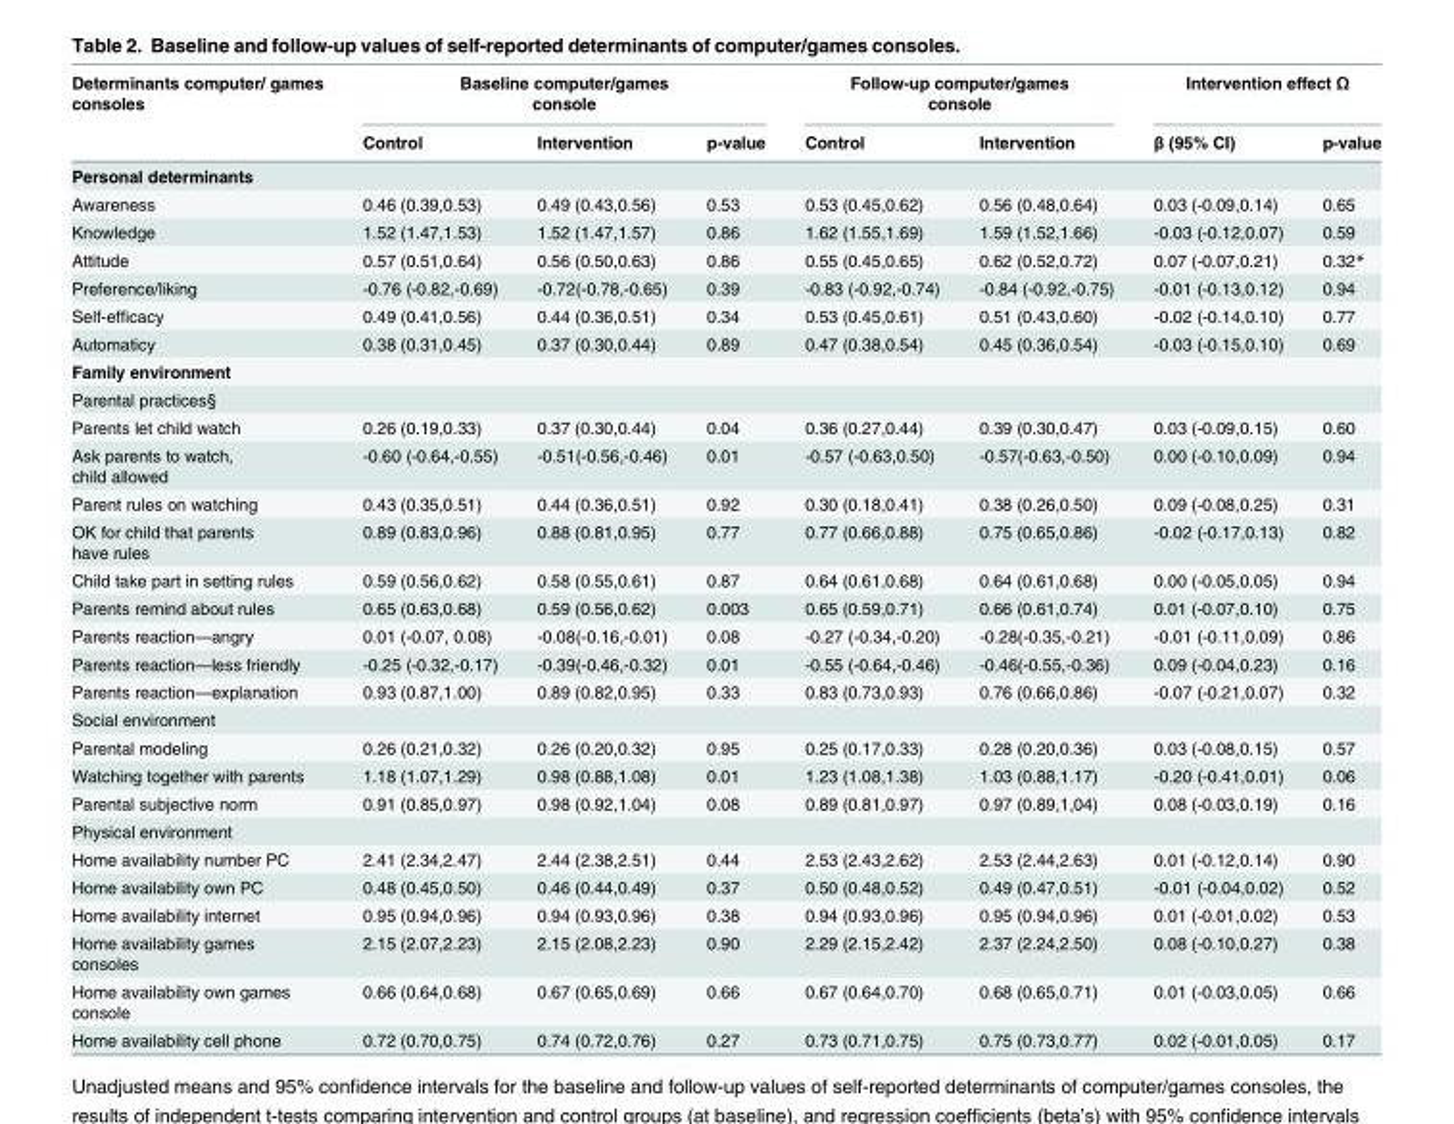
<table><thead><tr><td rowspan="2">Determinants computer/ games consoles</td><td colspan="3">Baseline computer/games console</td><td colspan="2">Follow-up computer/games console</td><td colspan="2">Intervention effect Ω</td></tr><tr><td>Control</td><td>Intervention</td><td>p-value</td><td>Control</td><td>Intervention</td><td>β (95% CI)</td><td>p-value</td></tr></thead><tbody><tr><td colspan="8">Personal determinants</td></tr><tr><td>Awareness</td><td>0.46 (0.39,0.53)</td><td>0.49 (0.43,0.56)</td><td>0.53</td><td>0.53 (0.45,0.62)</td><td>0.56 (0.48,0.64)</td><td>0.03 (-0.09,0.14)</td><td>0.65</td></tr><tr><td>Knowledge</td><td>1.52 (1.47,1.53)</td><td>1.52 (1.47,1.57)</td><td>0.86</td><td>1.62 (1.55,1.69)</td><td>1.59 (1.52,1.66)</td><td>-0.03 (-0.12,0.07)</td><td>0.59</td></tr><tr><td>Attitude</td><td>0.57 (0.51,0.64)</td><td>0.56 (0.50,0.63)</td><td>0.86</td><td>0.55 (0.45,0.65)</td><td>0.62 (0.52,0.72)</td><td>0.07 (-0.07,0.21)</td><td>0.32*</td></tr><tr><td>Preference/liking</td><td>-0.76 (-0.82,-0.69)</td><td>-0.72(-0.78,-0.65)</td><td>0.39</td><td>-0.83 (-0.92,-0.74)</td><td>-0.84 (-0.92,-0.75)</td><td>-0.01 (-0.13,0.12)</td><td>0.94</td></tr><tr><td>Self-efficacy</td><td>0.49 (0.41,0.56)</td><td>0.44 (0.36,0.51)</td><td>0.34</td><td>0.53 (0.45,0.61)</td><td>0.51 (0.43,0.60)</td><td>-0.02 (-0.14,0.10)</td><td>0.77</td></tr><tr><td>Automaticy</td><td>0.38 (0.31,0.45)</td><td>0.37 (0.30,0.44)</td><td>0.89</td><td>0.47 (0.38,0.54)</td><td>0.45 (0.36,0.54)</td><td>-0.03 (-0.15,0.10)</td><td>0.69</td></tr><tr><td colspan="8">Family environment</td></tr><tr><td colspan="8">Parental practices§</td></tr><tr><td>Parents let child watch</td><td>0.26 (0.19,0.33)</td><td>0.37 (0.30,0.44)</td><td>0.04</td><td>0.36 (0.27,0.44)</td><td>0.39 (0.30,0.47)</td><td>0.03 (-0.09,0.15)</td><td>0.60</td></tr><tr><td>Ask parents to watch, child allowed</td><td>-0.60 (-0.64,-0.55)</td><td>-0.51(-0.56,-0.46)</td><td>0.01</td><td>-0.57 (-0.63,0.50)</td><td>-0.57(-0.63,-0.50)</td><td>0.00 (-0.10,0.09)</td><td>0.94</td></tr><tr><td>Parent rules on watching</td><td>0.43 (0.35,0.51)</td><td>0.44 (0.36,0.51)</td><td>0.92</td><td>0.30 (0.18,0.41)</td><td>0.38 (0.26,0.50)</td><td>0.09 (-0.08,0.25)</td><td>0.31</td></tr><tr><td>OK for child that parents have rules</td><td>0.89 (0.83,0.96)</td><td>0.88 (0.81,0.95)</td><td>0.77</td><td>0.77 (0.66,0.88)</td><td>0.75 (0.65,0.86)</td><td>-0.02 (-0.17,0.13)</td><td>0.82</td></tr><tr><td>Child take part in setting rules</td><td>0.59 (0.56,0.62)</td><td>0.58 (0.55,0.61)</td><td>0.87</td><td>0.64 (0.61,0.68)</td><td>0.64 (0.61,0.68)</td><td>0.00 (-0.05,0.05)</td><td>0.94</td></tr><tr><td>Parents remind about rules</td><td>0.65 (0.63,0.68)</td><td>0.59 (0.56,0.62)</td><td>0.003</td><td>0.65 (0.59,0.71)</td><td>0.66 (0.61,0.74)</td><td>0.01 (-0.07,0.10)</td><td>0.75</td></tr><tr><td>Parents reaction—angry</td><td>0.01 (-0.07, 0.08)</td><td>-0.08(-0.16,-0.01)</td><td>0.08</td><td>-0.27 (-0.34,-0.20)</td><td>-0.28(-0.35,-0.21)</td><td>-0.01 (-0.11,0.09)</td><td>0.86</td></tr><tr><td>Parents reaction—less friendly</td><td>-0.25 (-0.32,-0.17)</td><td>-0.39(-0.46,-0.32)</td><td>0.01</td><td>-0.55 (-0.64,-0.46)</td><td>-0.46(-0.55,-0.36)</td><td>0.09 (-0.04,0.23)</td><td>0.16</td></tr><tr><td>Parents reaction—explanation</td><td>0.93 (0.87,1.00)</td><td>0.89 (0.82,0.95)</td><td>0.33</td><td>0.83 (0.73,0.93)</td><td>0.76 (0.66,0.86)</td><td>-0.07 (-0.21,0.07)</td><td>0.32</td></tr><tr><td colspan="8">Social environment</td></tr><tr><td>Parental modeling</td><td>0.26 (0.21,0.32)</td><td>0.26 (0.20,0.32)</td><td>0.95</td><td>0.25 (0.17,0.33)</td><td>0.28 (0.20,0.36)</td><td>0.03 (-0.08,0.15)</td><td>0.57</td></tr><tr><td>Watching together with parents</td><td>1.18 (1.07,1.29)</td><td>0.98 (0.88,1.08)</td><td>0.01</td><td>1.23 (1.08,1.38)</td><td>1.03 (0.88,1.17)</td><td>-0.20 (-0.41,0.01)</td><td>0.06</td></tr><tr><td>Parental subjective norm</td><td>0.91 (0.85,0.97)</td><td>0.98 (0.92,1.04)</td><td>0.08</td><td>0.89 (0.81,0.97)</td><td>0.97 (0.89,1,04)</td><td>0.08 (-0.03,0.19)</td><td>0.16</td></tr><tr><td colspan="8">Physical environment</td></tr><tr><td>Home availability number PC</td><td>2.41 (2.34,2.47)</td><td>2.44 (2.38,2.51)</td><td>0.44</td><td>2.53 (2.43,2.62)</td><td>2.53 (2.44,2.63)</td><td>0.01 (-0.12,0.14)</td><td>0.90</td></tr><tr><td>Home availability own PC</td><td>0.48 (0.45,0.50)</td><td>0.46 (0.44,0.49)</td><td>0.37</td><td>0.50 (0.48,0.52)</td><td>0.49 (0.47,0.51)</td><td>-0.01 (-0.04,0.02)</td><td>0.52</td></tr><tr><td>Home availability internet</td><td>0.95 (0.94,0.96)</td><td>0.94 (0.93,0.96)</td><td>0.38</td><td>0.94 (0.93,0.96)</td><td>0.95 (0.94,0.96)</td><td>0.01 (-0.01,0.02)</td><td>0.53</td></tr><tr><td>Home availability games consoles</td><td>2.15 (2.07,2.23)</td><td>2.15 (2.08,2.23)</td><td>0.90</td><td>2.29 (2.15,2.42)</td><td>2.37 (2.24,2.50)</td><td>0.08 (-0.10,0.27)</td><td>0.38</td></tr><tr><td>Home availability own games console</td><td>0.66 (0.64,0.68)</td><td>0.67 (0.65,0.69)</td><td>0.66</td><td>0.67 (0.64,0.70)</td><td>0.68 (0.65,0.71)</td><td>0.01 (-0.03,0.05)</td><td>0.66</td></tr><tr><td>Home availability cell phone</td><td>0.72 (0.70,0.75)</td><td>0.74 (0.72,0.76)</td><td>0.27</td><td>0.73 (0.71,0.75)</td><td>0.75 (0.73,0.77)</td><td>0.02 (-0.01,0.05)</td><td>0.17</td></tr></tbody></table>